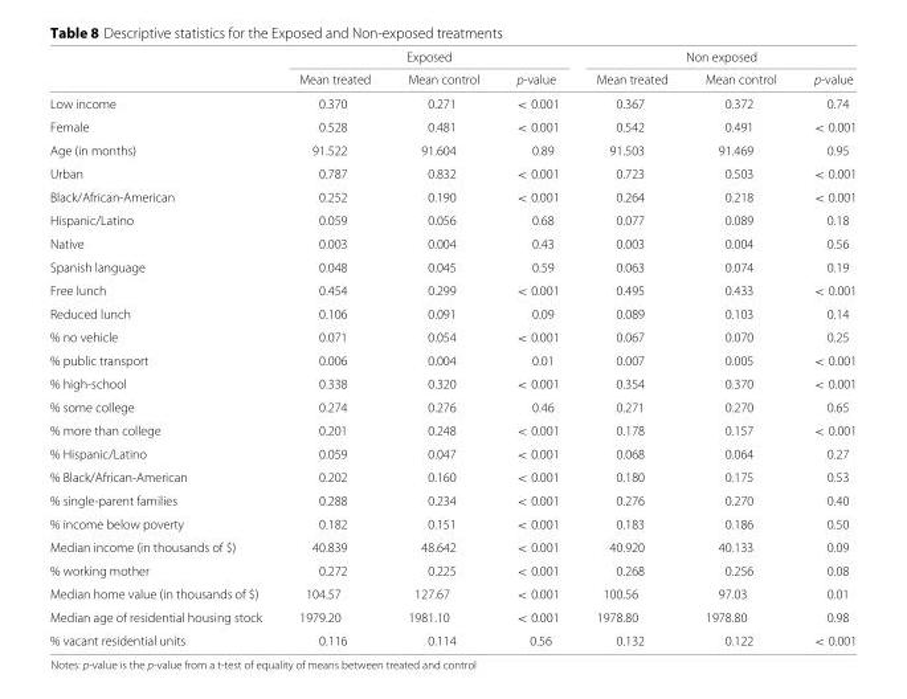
<table><thead><tr><td rowspan="2"></td><td colspan="3">Exposed</td><td colspan="3">Non exposed</td></tr><tr><td>Mean treated</td><td>Mean control</td><td>p-value</td><td>Mean treated</td><td>Mean control</td><td>p-value</td></tr></thead><tbody><tr><td>Low income</td><td>0.370</td><td>0.271</td><td>&lt; 0.001</td><td>0.367</td><td>0.372</td><td>0.74</td></tr><tr><td>Female</td><td>0.528</td><td>0.481</td><td>&lt; 0.001</td><td>0.542</td><td>0.491</td><td>&lt; 0.001</td></tr><tr><td>Age (in months)</td><td>91.522</td><td>91.604</td><td>0.89</td><td>91.503</td><td>91.469</td><td>0.95</td></tr><tr><td>Urban</td><td>0.787</td><td>0.832</td><td>&lt; 0.001</td><td>0.723</td><td>0.503</td><td>&lt; 0.001</td></tr><tr><td>Black/African-American</td><td>0.252</td><td>0.190</td><td>&lt; 0.001</td><td>0.264</td><td>0.218</td><td>&lt; 0.001</td></tr><tr><td>Hispanic/Latino</td><td>0.059</td><td>0.056</td><td>0.68</td><td>0.077</td><td>0.089</td><td>0.18</td></tr><tr><td>Native</td><td>0.003</td><td>0.004</td><td>0.43</td><td>0.003</td><td>0.004</td><td>0.56</td></tr><tr><td>Spanish language</td><td>0.048</td><td>0.045</td><td>0.59</td><td>0.063</td><td>0.074</td><td>0.19</td></tr><tr><td>Free lunch</td><td>0.454</td><td>0.299</td><td>&lt; 0.001</td><td>0.495</td><td>0.433</td><td>&lt; 0.001</td></tr><tr><td>Reduced lunch</td><td>0.106</td><td>0.091</td><td>0.09</td><td>0.089</td><td>0.103</td><td>0.14</td></tr><tr><td>% no vehicle</td><td>0.071</td><td>0.054</td><td>&lt; 0.001</td><td>0.067</td><td>0.070</td><td>0.25</td></tr><tr><td>% public transport</td><td>0.006</td><td>0.004</td><td>0.01</td><td>0.007</td><td>0.005</td><td>&lt; 0.001</td></tr><tr><td>% high-school</td><td>0.338</td><td>0.320</td><td>&lt; 0.001</td><td>0.354</td><td>0.370</td><td>&lt; 0.001</td></tr><tr><td>% some college</td><td>0.274</td><td>0.276</td><td>0.46</td><td>0.271</td><td>0.270</td><td>0.65</td></tr><tr><td>% more than college</td><td>0.201</td><td>0.248</td><td>&lt; 0.001</td><td>0.178</td><td>0.157</td><td>&lt; 0.001</td></tr><tr><td>% Hispanic/Latino</td><td>0.059</td><td>0.047</td><td>&lt; 0.001</td><td>0.068</td><td>0.064</td><td>0.27</td></tr><tr><td>% Black/African-American</td><td>0.202</td><td>0.160</td><td>&lt; 0.001</td><td>0.180</td><td>0.175</td><td>0.53</td></tr><tr><td>% single-parent families</td><td>0.288</td><td>0.234</td><td>&lt; 0.001</td><td>0.276</td><td>0.270</td><td>0.40</td></tr><tr><td>% income below poverty</td><td>0.182</td><td>0.151</td><td>&lt; 0.001</td><td>0.183</td><td>0.186</td><td>0.50</td></tr><tr><td>Median income (in thousands of $)</td><td>40.839</td><td>48.642</td><td>&lt; 0.001</td><td>40.920</td><td>40.133</td><td>0.09</td></tr><tr><td>% working mother</td><td>0.272</td><td>0.225</td><td>&lt; 0.001</td><td>0.268</td><td>0.256</td><td>0.08</td></tr><tr><td>Median home value (in thousands of $)</td><td>104.57</td><td>127.67</td><td>&lt; 0.001</td><td>100.56</td><td>97.03</td><td>0.01</td></tr><tr><td>Median age of residential housing stock</td><td>1979.20</td><td>1981.10</td><td>&lt; 0.001</td><td>1978.80</td><td>1978.80</td><td>0.98</td></tr><tr><td>% vacant residential units</td><td>0.116</td><td>0.114</td><td>0.56</td><td>0.132</td><td>0.122</td><td>&lt; 0.001</td></tr></tbody></table>